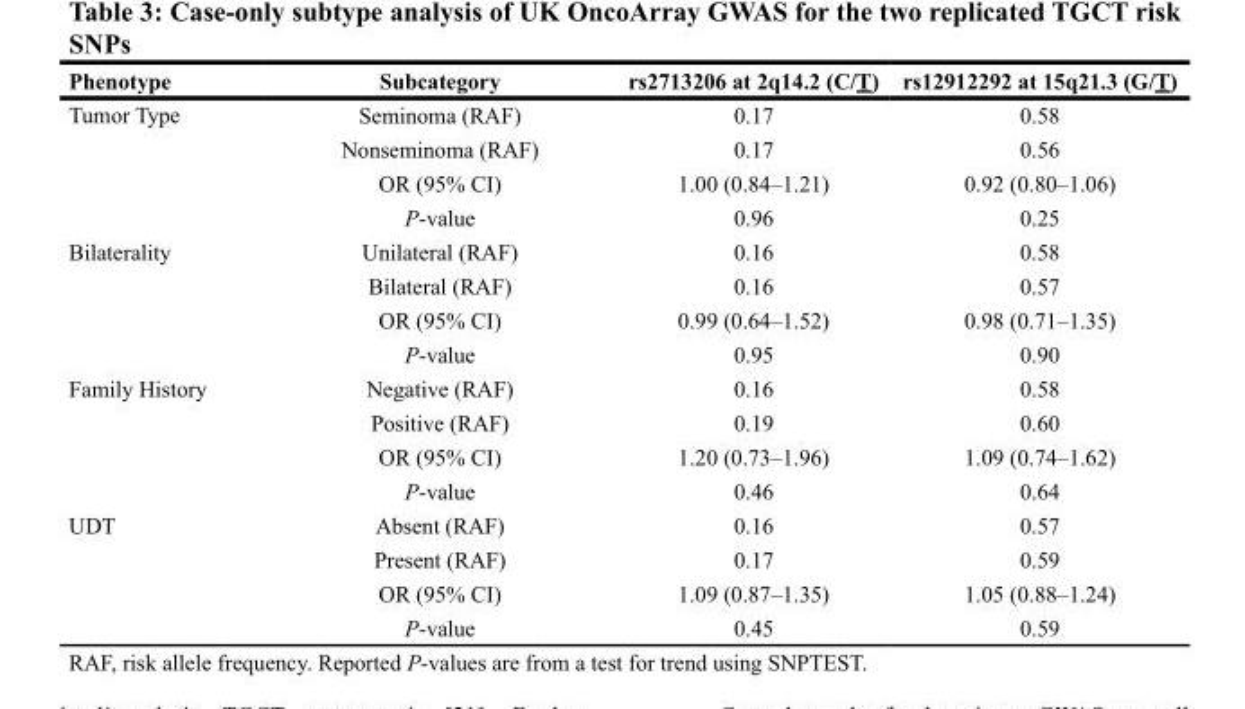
<table><thead><tr><td>Phenotype</td><td>Subcategory</td><td>rs2713206 at 2q14.2 (C/T)</td><td>rs12912292 at 15q21.3 (G/T)</td></tr></thead><tbody><tr><td rowspan="4">Tumor Type</td><td>Seminoma (RAF)</td><td>0.17</td><td>0.58</td></tr><tr><td>Nonseminoma (RAF)</td><td>0.17</td><td>0.56</td></tr><tr><td>OR (95% CI)</td><td>1.00 (0.84–1.21)</td><td>0.92 (0.80–1.06)</td></tr><tr><td>P-value</td><td>0.96</td><td>0.25</td></tr><tr><td rowspan="4">Bilaterality</td><td>Unilateral (RAF)</td><td>0.16</td><td>0.58</td></tr><tr><td>Bilateral (RAF)</td><td>0.16</td><td>0.57</td></tr><tr><td>OR (95% CI)</td><td>0.99 (0.64–1.52)</td><td>0.98 (0.71–1.35)</td></tr><tr><td>P-value</td><td>0.95</td><td>0.90</td></tr><tr><td rowspan="4">Family History</td><td>Negative (RAF)</td><td>0.16</td><td>0.58</td></tr><tr><td>Positive (RAF)</td><td>0.19</td><td>0.60</td></tr><tr><td>OR (95% CI)</td><td>1.20 (0.73–1.96)</td><td>1.09 (0.74–1.62)</td></tr><tr><td>P-value</td><td>0.46</td><td>0.64</td></tr><tr><td rowspan="4">UDT</td><td>Absent (RAF)</td><td>0.16</td><td>0.57</td></tr><tr><td>Present (RAF)</td><td>0.17</td><td>0.59</td></tr><tr><td>OR (95% CI)</td><td>1.09 (0.87–1.35)</td><td>1.05 (0.88–1.24)</td></tr><tr><td>P-value</td><td>0.45</td><td>0.59</td></tr></tbody></table>